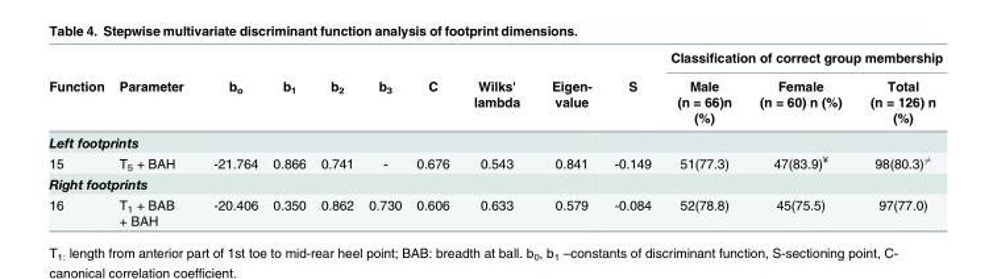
<table><thead><tr><td rowspan="2">Function</td><td rowspan="2">Parameter</td><td rowspan="2">b<sub>o</sub></td><td rowspan="2">b<sub>1</sub></td><td rowspan="2">b<sub>2</sub></td><td rowspan="2">b<sub>3</sub></td><td rowspan="2">C</td><td rowspan="2">Wilks&#x27; lambda</td><td rowspan="2">Eigen- value</td><td rowspan="2">S</td><td colspan="3">Classification of correct group membership</td></tr><tr><td>Male (n = 66)n (%)</td><td>Female (n = 60) n (%)</td><td>Total (n = 126) n (%)</td></tr></thead><tbody><tr><td colspan="13">Left footprints</td></tr><tr><td>15</td><td>T<sub>5</sub> + BAH</td><td>-21.764</td><td>0.866</td><td>0.741</td><td>-</td><td>0.676</td><td>0.543</td><td>0.841</td><td>-0.149</td><td>51(77.3)</td><td>47(83.9)<sup>¥</sup></td><td>98(80.3)6¼</td></tr><tr><td colspan="13">Right footprints</td></tr><tr><td>16</td><td>T<sub>1</sub> + BAB + BAH</td><td>-20.406</td><td>0.350</td><td>0.862</td><td>0.730</td><td>0.606</td><td>0.633</td><td>0.579</td><td>-0.084</td><td>52(78.8)</td><td>45(75.5)</td><td>97(77.0)</td></tr></tbody></table>